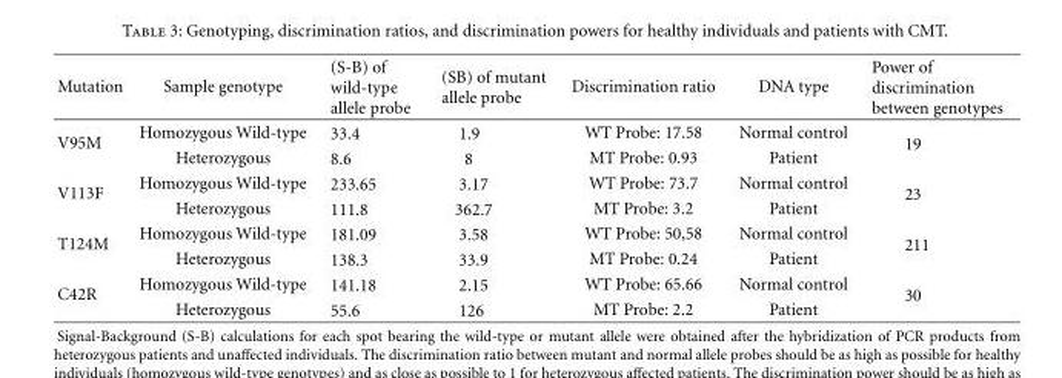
<table><thead><tr><td>Mutation</td><td>Sample genotype</td><td>(S-B) of wild-type allele probe</td><td>(SB) of mutant allele probe</td><td>Discrimination ratio</td><td>DNA type</td><td>Power of discrimination between genotypes</td></tr></thead><tbody><tr><td rowspan="2">V95M</td><td>Homozygous Wild-type</td><td>33.4</td><td>1.9</td><td>WT Probe: 17.58</td><td>Normal control</td><td rowspan="2">19</td></tr><tr><td>Heterozygous</td><td>8.6</td><td>8</td><td>MT Probe: 0.93</td><td>Patient</td></tr><tr><td rowspan="2">V113F</td><td>Homozygous Wild-type</td><td>233.65</td><td>3.17</td><td>WT Probe: 73.7</td><td>Normal control</td><td rowspan="2">23</td></tr><tr><td>Heterozygous</td><td>111.8</td><td>362.7</td><td>MT Probe: 3.2</td><td>Patient</td></tr><tr><td rowspan="2">T124M</td><td>Homozygous Wild-type</td><td>181.09</td><td>3.58</td><td>WT Probe: 50,58</td><td>Normal control</td><td rowspan="2">211</td></tr><tr><td>Heterozygous</td><td>138.3</td><td>33.9</td><td>MT Probe: 0.24</td><td>Patient</td></tr><tr><td rowspan="2">C42R</td><td>Homozygous Wild-type</td><td>141.18</td><td>2.15</td><td>WT Probe: 65.66</td><td>Normal control</td><td rowspan="2">30</td></tr><tr><td>Heterozygous</td><td>55.6</td><td>126</td><td>MT Probe: 2.2</td><td>Patient</td></tr></tbody></table>